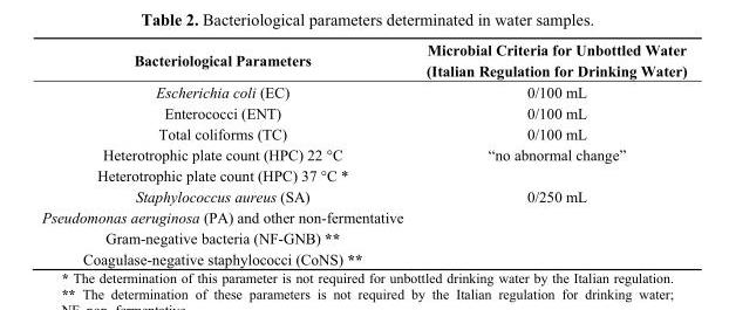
<table><thead><tr><td>Bacteriological Parameters</td><td>Microbial Criteria for Unbottled Water (Italian Regulation for Drinking Water)</td></tr></thead><tbody><tr><td>Escherichia coli (EC)</td><td>0/100 mL</td></tr><tr><td>Enterococci (ENT)</td><td>0/100 mL</td></tr><tr><td>Total coliforms (TC)</td><td>0/100 mL</td></tr><tr><td>Heterotrophic plate count (HPC) 22 °C</td><td>“no abnormal change”</td></tr><tr><td colspan="2">Heterotrophic plate count (HPC) 37 °C *</td></tr><tr><td>Staphylococcus aureus (SA)</td><td>0/250 mL</td></tr><tr><td colspan="2">Pseudomonas aeruginosa (PA) and other non-fermentative Gram-negative bacteria (NF-GNB) **</td></tr><tr><td>Coagulase-negative staphylococci (CoNS) **</td><td></td></tr></tbody></table>